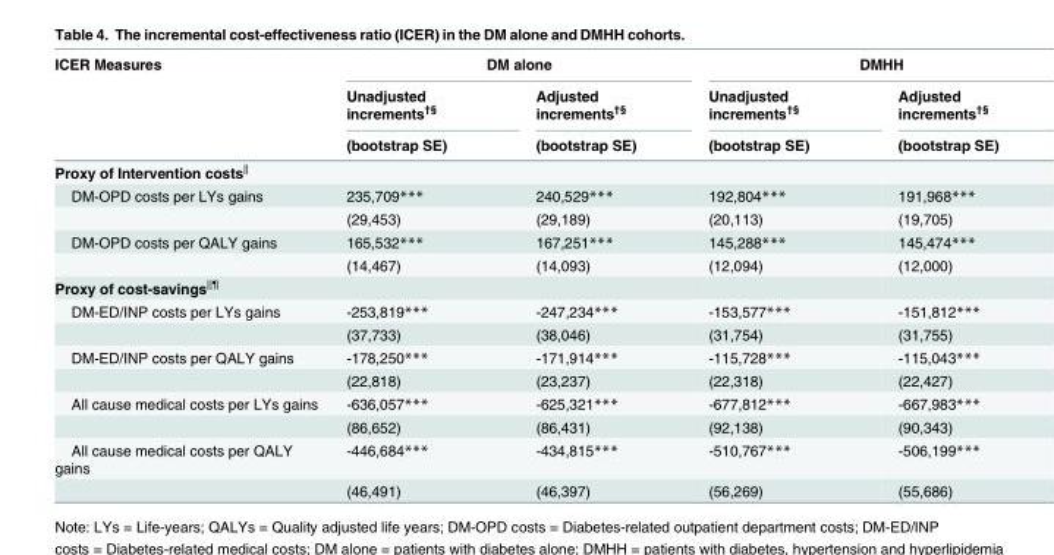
<table><thead><tr><td rowspan="3">ICER Measures</td><td colspan="2">DM alone</td><td colspan="2">DMHH</td></tr><tr><td rowspan="2">Unadjusted increments<sup>†§</sup> (bootstrap SE)</td><td rowspan="2">Adjusted increments<sup>†§</sup> (bootstrap SE)</td><td rowspan="2">Unadjusted increments<sup>†§</sup> (bootstrap SE)</td><td rowspan="2">Adjusted increments<sup>†§</sup> (bootstrap SE)</td></tr><tr></tr></thead><tbody><tr><td colspan="5">Proxy of Intervention costs<sup>||</sup></td></tr><tr><td rowspan="2">DM-OPD costs per LYs gains</td><td>235,709***</td><td>240,529***</td><td>192,804***</td><td>191,968***</td></tr><tr><td>(29,453)</td><td>(29,189)</td><td>(20,113)</td><td>(19,705)</td></tr><tr><td rowspan="2">DM-OPD costs per QALY gains</td><td>165,532***</td><td>167,251***</td><td>145,288***</td><td>145,474***</td></tr><tr><td>(14,467)</td><td>(14,093)</td><td>(12,094)</td><td>(12,000)</td></tr><tr><td colspan="5">Proxy of cost-savings<sup>||¶</sup></td></tr><tr><td rowspan="2">DM-ED/INP costs per LYs gains</td><td>-253,819***</td><td>-247,234***</td><td>-153,577***</td><td>-151,812***</td></tr><tr><td>(37,733)</td><td>(38,046)</td><td>(31,754)</td><td>(31,755)</td></tr><tr><td rowspan="2">DM-ED/INP costs per QALY gains</td><td>-178,250***</td><td>-171,914***</td><td>-115,728***</td><td>-115,043***</td></tr><tr><td>(22,818)</td><td>(23,237)</td><td>(22,318)</td><td>(22,427)</td></tr><tr><td rowspan="2">All cause medical costs per LYs gains</td><td>-636,057***</td><td>-625,321***</td><td>-677,812***</td><td>-667,983***</td></tr><tr><td>(86,652)</td><td>(86,431)</td><td>(92,138)</td><td>(90,343)</td></tr><tr><td rowspan="2">All cause medical costs per QALY gains</td><td>-446,684***</td><td>-434,815***</td><td>-510,767***</td><td>-506,199***</td></tr><tr><td>(46,491)</td><td>(46,397)</td><td>(56,269)</td><td>(55,686)</td></tr></tbody></table>